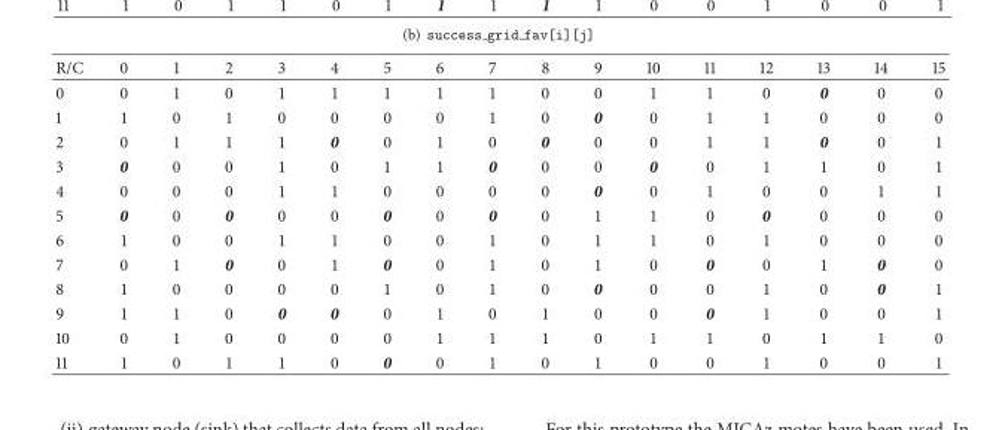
<table><thead><tr><td>R/C</td><td>0</td><td>1</td><td>2</td><td>3</td><td>4</td><td>5</td><td>6</td><td>7</td><td>8</td><td>9</td><td>10</td><td>11</td><td>12</td><td>13</td><td>14</td><td>15</td></tr></thead><tbody><tr><td>0</td><td>0</td><td>1</td><td>0</td><td>1</td><td>1</td><td>1</td><td>1</td><td>1</td><td>0</td><td>0</td><td>1</td><td>1</td><td>0</td><td>0</td><td>0</td><td>0</td></tr><tr><td>1</td><td>1</td><td>0</td><td>1</td><td>0</td><td>0</td><td>0</td><td>0</td><td>1</td><td>0</td><td>0</td><td>0</td><td>1</td><td>1</td><td>0</td><td>0</td><td>0</td></tr><tr><td>2</td><td>0</td><td>1</td><td>1</td><td>1</td><td>0</td><td>0</td><td>1</td><td>0</td><td>0</td><td>0</td><td>0</td><td>1</td><td>1</td><td>0</td><td>0</td><td>1</td></tr><tr><td>3</td><td>0</td><td>0</td><td>0</td><td>1</td><td>0</td><td>1</td><td>1</td><td>0</td><td>0</td><td>0</td><td>0</td><td>0</td><td>1</td><td>1</td><td>0</td><td>1</td></tr><tr><td>4</td><td>0</td><td>0</td><td>0</td><td>1</td><td>1</td><td>0</td><td>0</td><td>0</td><td>0</td><td>0</td><td>0</td><td>1</td><td>0</td><td>0</td><td>1</td><td>1</td></tr><tr><td>5</td><td>0</td><td>0</td><td>0</td><td>0</td><td>0</td><td>0</td><td>0</td><td>0</td><td>0</td><td>1</td><td>1</td><td>0</td><td>0</td><td>0</td><td>0</td><td>0</td></tr><tr><td>6</td><td>1</td><td>0</td><td>0</td><td>1</td><td>1</td><td>0</td><td>0</td><td>1</td><td>0</td><td>1</td><td>1</td><td>0</td><td>1</td><td>0</td><td>0</td><td>0</td></tr><tr><td>7</td><td>0</td><td>1</td><td>0</td><td>0</td><td>1</td><td>0</td><td>0</td><td>1</td><td>0</td><td>1</td><td>0</td><td>0</td><td>0</td><td>1</td><td>0</td><td>0</td></tr><tr><td>8</td><td>1</td><td>0</td><td>0</td><td>0</td><td>0</td><td>1</td><td>0</td><td>1</td><td>0</td><td>0</td><td>0</td><td>0</td><td>1</td><td>0</td><td>0</td><td>1</td></tr><tr><td>9</td><td>1</td><td>1</td><td>0</td><td>0</td><td>0</td><td>0</td><td>1</td><td>0</td><td>1</td><td>0</td><td>0</td><td>0</td><td>1</td><td>0</td><td>0</td><td>1</td></tr><tr><td>10</td><td>0</td><td>1</td><td>0</td><td>0</td><td>0</td><td>0</td><td>1</td><td>1</td><td>1</td><td>0</td><td>1</td><td>1</td><td>0</td><td>1</td><td>1</td><td>0</td></tr><tr><td>11</td><td>1</td><td>0</td><td>1</td><td>1</td><td>0</td><td>0</td><td>0</td><td>1</td><td>0</td><td>1</td><td>0</td><td>0</td><td>1</td><td>0</td><td>0</td><td>1</td></tr></tbody></table>